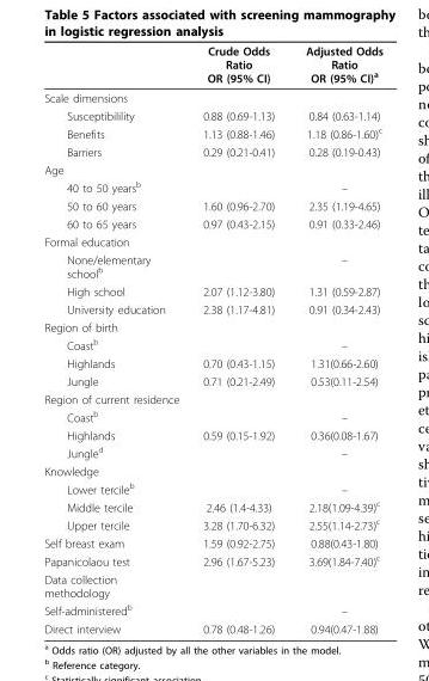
<table><thead><tr><td></td><td>Crude Odds Ratio OR (95% CI)</td><td>Adjusted Odds Ratio OR (95% CI)<sup>a</sup></td></tr></thead><tbody><tr><td colspan="3">Scale dimensions</td></tr><tr><td>Susceptibilility</td><td>0.88 (0.69-1.13)</td><td>0.84 (0.63-1.14)</td></tr><tr><td>Benefits</td><td>1.13 (0.88-1.46)</td><td>1.18 (0.86-1.60)<sup>c</sup></td></tr><tr><td>Barriers</td><td>0.29 (0.21-0.41)</td><td>0.28 (0.19-0.43)</td></tr><tr><td colspan="3">Age</td></tr><tr><td>40 to 50 years<sup>b</sup></td><td></td><td>–</td></tr><tr><td>50 to 60 years</td><td>1.60 (0.96-2.70)</td><td>2.35 (1.19-4.65)</td></tr><tr><td>60 to 65 years</td><td>0.97 (0.43-2.15)</td><td>0.91 (0.33-2.46)</td></tr><tr><td colspan="3">Formal education</td></tr><tr><td>None/elementary school<sup>b</sup></td><td></td><td>–</td></tr><tr><td>High school</td><td>2.07 (1.12-3.80)</td><td>1.31 (0.59-2.87)</td></tr><tr><td>University education</td><td>2.38 (1.17-4.81)</td><td>0.91 (0.34-2.43)</td></tr><tr><td colspan="3">Region of birth</td></tr><tr><td>Coast<sup>b</sup></td><td></td><td>–</td></tr><tr><td>Highlands</td><td>0.70 (0.43-1.15)</td><td>1.31(0.66-2.60)</td></tr><tr><td>Jungle</td><td>0.71 (0.21-2.49)</td><td>0.53(0.11-2.54)</td></tr><tr><td colspan="3">Region of current residence</td></tr><tr><td>Coast<sup>b</sup></td><td></td><td>–</td></tr><tr><td>Highlands</td><td>0.59 (0.15-1.92)</td><td>0.36(0.08-1.67)</td></tr><tr><td>Jungle<sup>d</sup></td><td></td><td>–</td></tr><tr><td colspan="3">Knowledge</td></tr><tr><td>Lower tercile<sup>b</sup></td><td></td><td>–</td></tr><tr><td>Middle tercile</td><td>2.46 (1.4-4.33)</td><td>2.18(1.09-4.39)<sup>c</sup></td></tr><tr><td>Upper tercile</td><td>3.28 (1.70-6.32)</td><td>2.55(1.14-2.73)<sup>c</sup></td></tr><tr><td>Self breast exam</td><td>1.59 (0.92-2.75)</td><td>0.88(0.43-1.80)</td></tr><tr><td>Papanicolaou test</td><td>2.96 (1.67-5.23)</td><td>3.69(1.84-7.40)<sup>c</sup></td></tr><tr><td colspan="3">Data collection methodology</td></tr><tr><td>Self-administered<sup>b</sup></td><td></td><td>–</td></tr><tr><td>Direct interview</td><td>0.78 (0.48-1.26)</td><td>0.94(0.47-1.88)</td></tr></tbody></table>